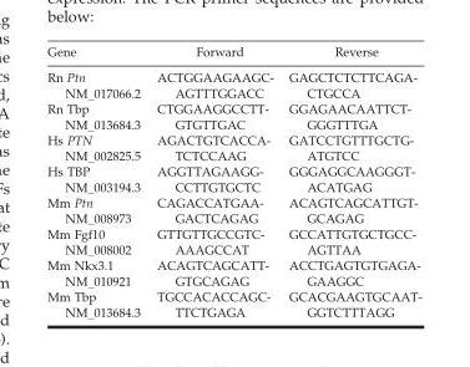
<table><thead><tr><td>Gene</td><td>Forward</td><td>Reverse</td></tr></thead><tbody><tr><td>Rn Ptn NM_017066.2</td><td>ACTGGAAGAAGC- AGTTTGGACC</td><td>GAGCTCTCTTCAGA- CTGCCA</td></tr><tr><td>Rn Tbp NM_013684.3</td><td>CTGGAAGGCCTT- GTGTTGAC</td><td>GGAGAACAATTCT- GGGTTTGA</td></tr><tr><td>Hs PTN NM_002825.5</td><td>AGACTGTCACCA- TCTCCAAG</td><td>GATCCTGTTTGCTG- ATGTCC</td></tr><tr><td>Hs TBP NM_003194.3</td><td>AGGTTAGAAGG- CCTTGTGCTC</td><td>GGGAGGCAAGGGT- ACATGAG</td></tr><tr><td>Mm Ptn NM_008973</td><td>CAGACCATGAA- GACTCAGAG</td><td>ACAGTCAGCATTGT- GCAGAG</td></tr><tr><td>Mm Fgf10 NM_008002</td><td>GTTGTTGCCGTC- AAAGCCAT</td><td>GCCATTGTGCTGCC- AGTTAA</td></tr><tr><td>Mm Nkx3.1 NM_010921</td><td>ACAGTCAGCATT- GTGCAGAG</td><td>ACCTGAGTGTGAGA- GAAGGC</td></tr><tr><td>Mm Tbp NM_013684.3</td><td>TGCCACACCAGC- TTCTGAGA</td><td>GCACGAAGTGCAAT- GGTCTTTAGG</td></tr></tbody></table>